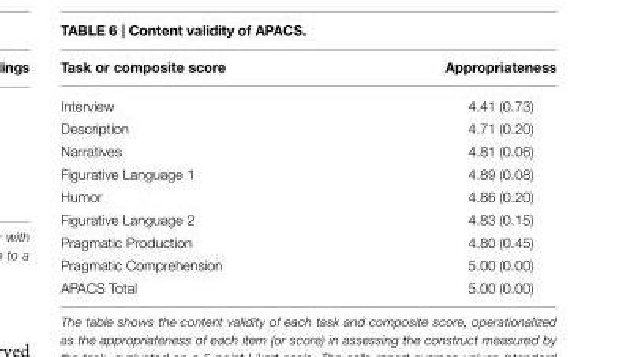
<table><thead><tr><td>Task or composite score</td><td>Appropriateness</td></tr></thead><tbody><tr><td>Interview</td><td>4.41 (0.73)</td></tr><tr><td>Description</td><td>4.71 (0.20)</td></tr><tr><td>Narratives</td><td>4.81 (0.06)</td></tr><tr><td>Figurative Language 1</td><td>4.89 (0.08)</td></tr><tr><td>Humor</td><td>4.86 (0.20)</td></tr><tr><td>Figurative Language 2</td><td>4.83 (0.15)</td></tr><tr><td>Pragmatic Production</td><td>4.80 (0.45)</td></tr><tr><td>Pragmatic Comprehension</td><td>5.00 (0.00)</td></tr><tr><td>APACS Total</td><td>5.00 (0.00)</td></tr></tbody></table>